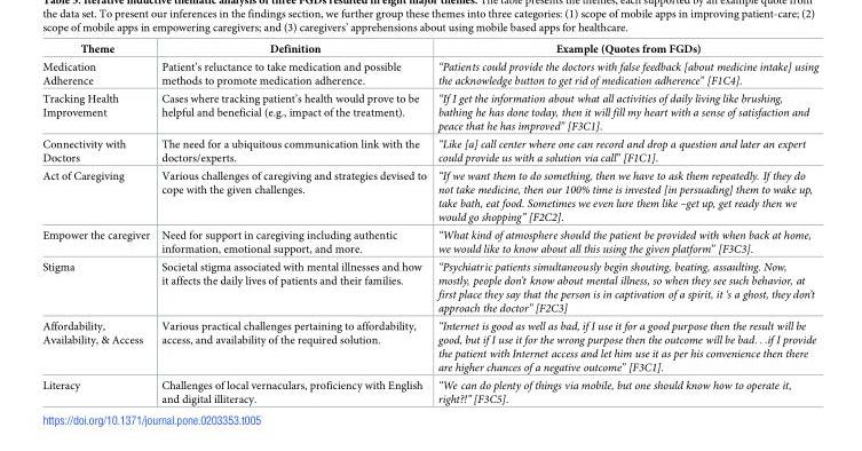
<table><thead><tr><td>Theme</td><td>Definition</td><td>Example (Quotes from FGDs)</td></tr></thead><tbody><tr><td>Medication Adherence</td><td>Patient’s reluctance to take medication and possible methods to promote medication adherence.</td><td>“Patients could provide the doctors with false feedback [about medicine intake] using the acknowledge button to get rid of medication adherence” [F1C4].</td></tr><tr><td>Tracking Health Improvement</td><td>Cases where tracking patient’s health would prove to be helpful and beneficial (e.g., impact of the treatment).</td><td>“If I get the information about what all activities of daily living like brushing, bathing he has done today, then it will fill my heart with a sense of satisfaction and peace that he has improved” [F3C1].</td></tr><tr><td>Connectivity with Doctors</td><td>The need for a ubiquitous communication link with the doctors/experts.</td><td>“Like [a] call center where one can record and drop a question and later an expert could provide us with a solution via call” [F1C1].</td></tr><tr><td>Act of Caregiving</td><td>Various challenges of caregiving and strategies devised to cope with the given challenges.</td><td>“If we want them to do something, then we have to ask them repeatedly. If they do not take medicine, then our 100% time is invested [in persuading] them to wake up, take bath, eat food. Sometimes we even lure them like –get up, get ready then we would go shopping” [F2C2].</td></tr><tr><td>Empower the caregiver</td><td>Need for support in caregiving including authentic information, emotional support, and more.</td><td>“What kind of atmosphere should the patient be provided with when back at home, we would like to know about all this using the given platform” [F3C3].</td></tr><tr><td>Stigma</td><td>Societal stigma associated with mental illnesses and how it affects the daily lives of patients and their families.</td><td>“Psychiatric patients simultaneously begin shouting, beating, assaulting. Now, mostly, people don’t know about mental illness, so when they see such behavior, at first place they say that the person is in captivation of a spirit, it ‘s a ghost, they don’t approach the doctor” [F2C3]</td></tr><tr><td>Affordability, Availability, &amp; Access</td><td>Various practical challenges pertaining to affordability, access, and availability of the required solution.</td><td>“Internet is good as well as bad, if I use it for a good purpose then the result will be good, but if I use it for the wrong purpose then the outcome will be bad. . .if I provide the patient with Internet access and let him use it as per his convenience then there are higher chances of a negative outcome” [F3C1].</td></tr><tr><td>Literacy</td><td>Challenges of local vernaculars, proficiency with English and digital illiteracy.</td><td>“We can do plenty of things via mobile, but one should know how to operate it, right?!” [F3C5].</td></tr></tbody></table>